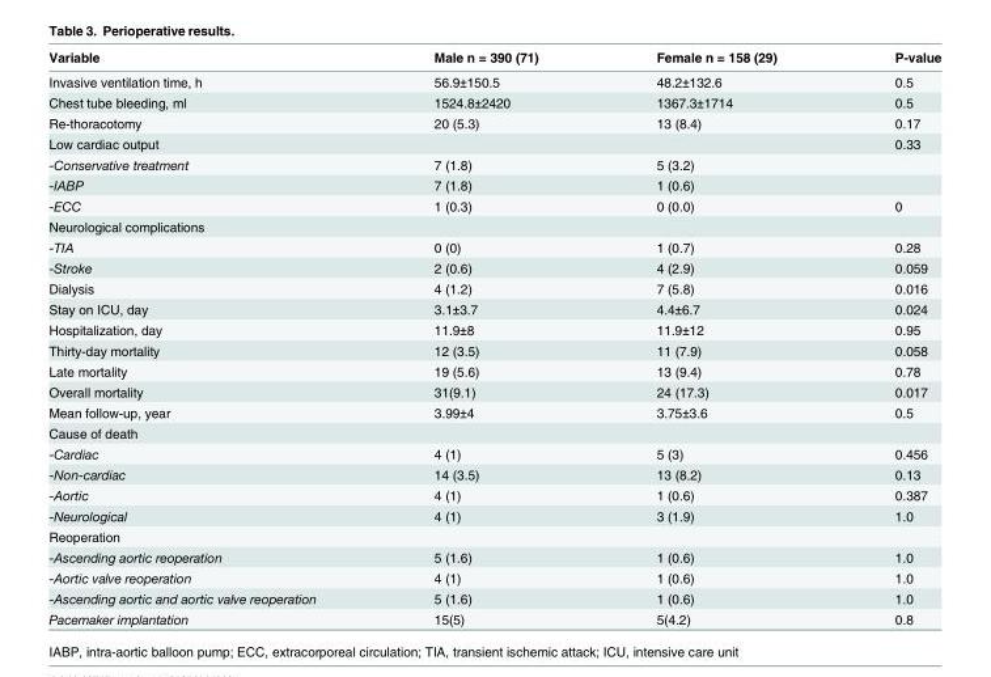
<table><thead><tr><td>Variable</td><td>Male n = 390 (71)</td><td>Female n = 158 (29)</td><td>P-value</td></tr></thead><tbody><tr><td>Invasive ventilation time, h</td><td>56.9±150.5</td><td>48.2±132.6</td><td>0.5</td></tr><tr><td>Chest tube bleeding, ml</td><td>1524.8±2420</td><td>1367.3±1714</td><td>0.5</td></tr><tr><td>Re-thoracotomy</td><td>20 (5.3)</td><td>13 (8.4)</td><td>0.17</td></tr><tr><td>Low cardiac output</td><td></td><td></td><td>0.33</td></tr><tr><td>-Conservative treatment</td><td>7 (1.8)</td><td>5 (3.2)</td><td></td></tr><tr><td>-IABP</td><td>7 (1.8)</td><td>1 (0.6)</td><td></td></tr><tr><td>-ECC</td><td>1 (0.3)</td><td>0 (0.0)</td><td>0</td></tr><tr><td colspan="4">Neurological complications</td></tr><tr><td>-TIA</td><td>0 (0)</td><td>1 (0.7)</td><td>0.28</td></tr><tr><td>-Stroke</td><td>2 (0.6)</td><td>4 (2.9)</td><td>0.059</td></tr><tr><td>Dialysis</td><td>4 (1.2)</td><td>7 (5.8)</td><td>0.016</td></tr><tr><td>Stay on ICU, day</td><td>3.1±3.7</td><td>4.4±6.7</td><td>0.024</td></tr><tr><td>Hospitalization, day</td><td>11.9±8</td><td>11.9±12</td><td>0.95</td></tr><tr><td>Thirty-day mortality</td><td>12 (3.5)</td><td>11 (7.9)</td><td>0.058</td></tr><tr><td>Late mortality</td><td>19 (5.6)</td><td>13 (9.4)</td><td>0.78</td></tr><tr><td>Overall mortality</td><td>31(9.1)</td><td>24 (17.3)</td><td>0.017</td></tr><tr><td>Mean follow-up, year</td><td>3.99±4</td><td>3.75±3.6</td><td>0.5</td></tr><tr><td colspan="4">Cause of death</td></tr><tr><td>-Cardiac</td><td>4 (1)</td><td>5 (3)</td><td>0.456</td></tr><tr><td>-Non-cardiac</td><td>14 (3.5)</td><td>13 (8.2)</td><td>0.13</td></tr><tr><td>-Aortic</td><td>4 (1)</td><td>1 (0.6)</td><td>0.387</td></tr><tr><td>-Neurological</td><td>4 (1)</td><td>3 (1.9)</td><td>1.0</td></tr><tr><td colspan="4">Reoperation</td></tr><tr><td>-Ascending aortic reoperation</td><td>5 (1.6)</td><td>1 (0.6)</td><td>1.0</td></tr><tr><td>-Aortic valve reoperation</td><td>4 (1)</td><td>1 (0.6)</td><td>1.0</td></tr><tr><td>-Ascending aortic and aortic valve reoperation</td><td>5 (1.6)</td><td>1 (0.6)</td><td>1.0</td></tr><tr><td>Pacemaker implantation</td><td>15(5)</td><td>5(4.2)</td><td>0.8</td></tr></tbody></table>